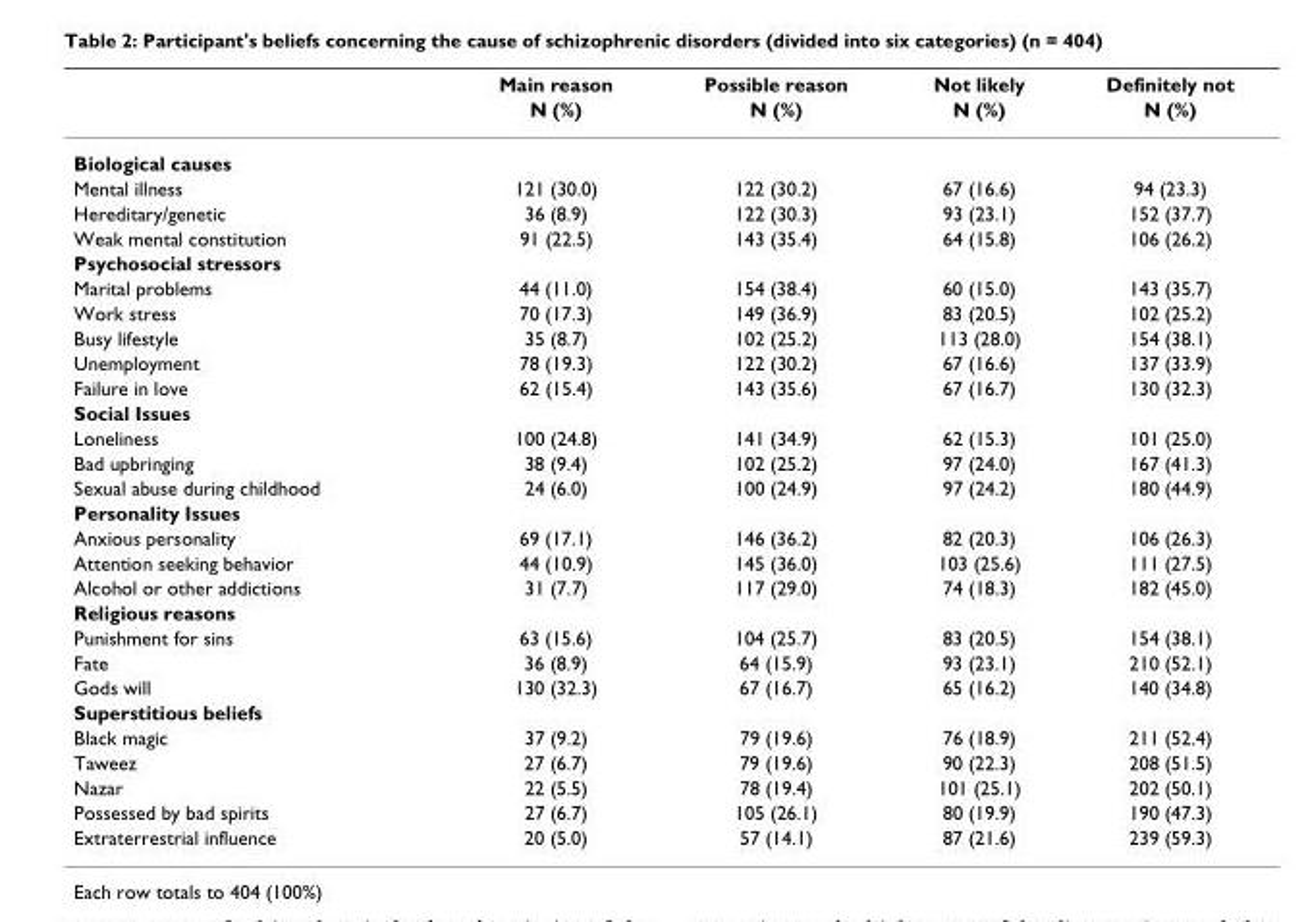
<table><thead><tr><td rowspan="2"></td><td rowspan="2">Main reason N (%)</td><td rowspan="2">Possible reason N (%)</td><td rowspan="2">Not likely N (%)</td><td rowspan="2">Definitely not N (%)</td></tr><tr></tr></thead><tbody><tr><td colspan="5">Biological causes</td></tr><tr><td>Mental illness</td><td>121 (30.0)</td><td>122 (30.2)</td><td>67 (16.6)</td><td>94 (23.3)</td></tr><tr><td>Hereditary/genetic</td><td>36 (8.9)</td><td>122 (30.3)</td><td>93 (23.1)</td><td>152 (37.7)</td></tr><tr><td>Weak mental constitution</td><td>91 (22.5)</td><td>143 (35.4)</td><td>64 (15.8)</td><td>106 (26.2)</td></tr><tr><td colspan="5">Psychosocial stressors</td></tr><tr><td>Marital problems</td><td>44 (11.0)</td><td>154 (38.4)</td><td>60 (15.0)</td><td>143 (35.7)</td></tr><tr><td>Work stress</td><td>70 (17.3)</td><td>149 (36.9)</td><td>83 (20.5)</td><td>102 (25.2)</td></tr><tr><td>Busy lifestyle</td><td>35 (8.7)</td><td>102 (25.2)</td><td>113 (28.0)</td><td>154 (38.1)</td></tr><tr><td>Unemployment</td><td>78 (19.3)</td><td>122 (30.2)</td><td>67 (16.6)</td><td>137 (33.9)</td></tr><tr><td>Failure in love</td><td>62 (15.4)</td><td>143 (35.6)</td><td>67 (16.7)</td><td>130 (32.3)</td></tr><tr><td colspan="5">Social Issues</td></tr><tr><td>Loneliness</td><td>100 (24.8)</td><td>141 (34.9)</td><td>62 (15.3)</td><td>101 (25.0)</td></tr><tr><td>Bad upbringing</td><td>38 (9.4)</td><td>102 (25.2)</td><td>97 (24.0)</td><td>167 (41.3)</td></tr><tr><td>Sexual abuse during childhood</td><td>24 (6.0)</td><td>100 (24.9)</td><td>97 (24.2)</td><td>180 (44.9)</td></tr><tr><td colspan="5">Personality Issues</td></tr><tr><td>Anxious personality</td><td>69 (17.1)</td><td>146 (36.2)</td><td>82 (20.3)</td><td>106 (26.3)</td></tr><tr><td>Attention seeking behavior</td><td>44 (10.9)</td><td>145 (36.0)</td><td>103 (25.6)</td><td>111 (27.5)</td></tr><tr><td>Alcohol or other addictions</td><td>31 (7.7)</td><td>117 (29.0)</td><td>74 (18.3)</td><td>182 (45.0)</td></tr><tr><td colspan="5">Religious reasons</td></tr><tr><td>Punishment for sins</td><td>63 (15.6)</td><td>104 (25.7)</td><td>83 (20.5)</td><td>154 (38.1)</td></tr><tr><td>Fate</td><td>36 (8.9)</td><td>64 (15.9)</td><td>93 (23.1)</td><td>210 (52.1)</td></tr><tr><td>Gods will</td><td>130 (32.3)</td><td>67 (16.7)</td><td>65 (16.2)</td><td>140 (34.8)</td></tr><tr><td colspan="5">Superstitious beliefs</td></tr><tr><td>Black magic</td><td>37 (9.2)</td><td>79 (19.6)</td><td>76 (18.9)</td><td>211 (52.4)</td></tr><tr><td>Taweez</td><td>27 (6.7)</td><td>79 (19.6)</td><td>90 (22.3)</td><td>208 (51.5)</td></tr><tr><td>Nazar</td><td>22 (5.5)</td><td>78 (19.4)</td><td>101 (25.1)</td><td>202 (50.1)</td></tr><tr><td>Possessed by bad spirits</td><td>27 (6.7)</td><td>105 (26.1)</td><td>80 (19.9)</td><td>190 (47.3)</td></tr><tr><td>Extraterrestrial influence</td><td>20 (5.0)</td><td>57 (14.1)</td><td>87 (21.6)</td><td>239 (59.3)</td></tr></tbody></table>